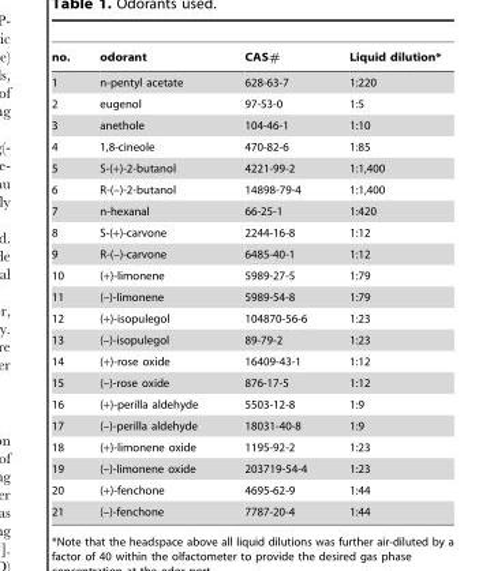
<table><thead><tr><td>no.</td><td>odorant</td><td>CAS#</td><td>Liquid dilution*</td></tr></thead><tbody><tr><td>1</td><td>n-pentyl acetate</td><td>628-63-7</td><td>1:220</td></tr><tr><td>2</td><td>eugenol</td><td>97-53-0</td><td>1:5</td></tr><tr><td>3</td><td>anethole</td><td>104-46-1</td><td>1:10</td></tr><tr><td>4</td><td>1,8-cineole</td><td>470-82-6</td><td>1:85</td></tr><tr><td>5</td><td>S-(+)-2-butanol</td><td>4221-99-2</td><td>1:1,400</td></tr><tr><td>6</td><td>R-(–)-2-butanol</td><td>14898-79-4</td><td>1:1,400</td></tr><tr><td>7</td><td>n-hexanal</td><td>66-25-1</td><td>1:420</td></tr><tr><td>8</td><td>S-(+)-carvone</td><td>2244-16-8</td><td>1:12</td></tr><tr><td>9</td><td>R-(–)-carvone</td><td>6485-40-1</td><td>1:12</td></tr><tr><td>10</td><td>(+)-limonene</td><td>5989-27-5</td><td>1:79</td></tr><tr><td>11</td><td>(–)-limonene</td><td>5989-54-8</td><td>1:79</td></tr><tr><td>12</td><td>(+)-isopulegol</td><td>104870-56-6</td><td>1:23</td></tr><tr><td>13</td><td>(–)-isopulegol</td><td>89-79-2</td><td>1:23</td></tr><tr><td>14</td><td>(+)-rose oxide</td><td>16409-43-1</td><td>1:12</td></tr><tr><td>15</td><td>(–)-rose oxide</td><td>876-17-5</td><td>1:12</td></tr><tr><td>16</td><td>(+)-perilla aldehyde</td><td>5503-12-8</td><td>1:9</td></tr><tr><td>17</td><td>(–)-perilla aldehyde</td><td>18031-40-8</td><td>1:9</td></tr><tr><td>18</td><td>(+)-limonene oxide</td><td>1195-92-2</td><td>1:23</td></tr><tr><td>19</td><td>(–)-limonene oxide</td><td>203719-54-4</td><td>1:23</td></tr><tr><td>20</td><td>(+)-fenchone</td><td>4695-62-9</td><td>1:44</td></tr><tr><td>21</td><td>(–)-fenchone</td><td>7787-20-4</td><td>1:44</td></tr></tbody></table>